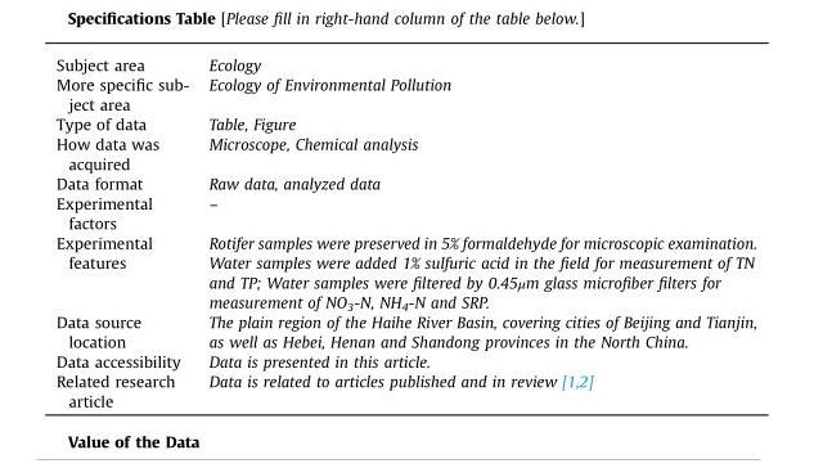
<table><tbody><tr><td>Subject area</td><td>Ecology</td></tr><tr><td>More specific sub- ject area</td><td>Ecology of Environmental Pollution</td></tr><tr><td>Type of data</td><td>Table, Figure</td></tr><tr><td>How data was acquired</td><td>Microscope, Chemical analysis</td></tr><tr><td>Data format</td><td>Raw data, analyzed data</td></tr><tr><td>Experimental factors</td><td>–</td></tr><tr><td>Experimental features</td><td>Rotifer samples were preserved in 5% formaldehyde for microscopic examination. Water samples were added 1% sulfuric acid in the field for measurement of TN and TP; Water samples were filtered by 0.45μm glass microfiber filters for measurement of NO<sub>3</sub>-N, NH<sub>4</sub>-N and SRP.</td></tr><tr><td>Data source location</td><td>The plain region of the Haihe River Basin, covering cities of Beijing and Tianjin, as well as Hebei, Henan and Shandong provinces in the North China.</td></tr><tr><td>Data accessibility</td><td>Data is presented in this article.</td></tr><tr><td>Related research article</td><td>Data is related to articles published and in review [1,2]</td></tr></tbody></table>